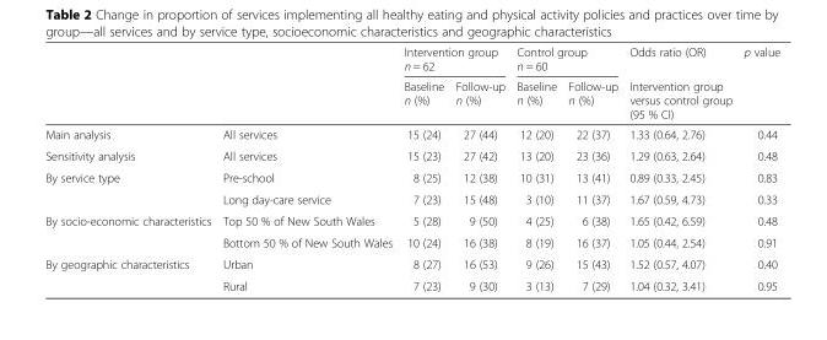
<table><thead><tr><td rowspan="2"></td><td rowspan="2"></td><td colspan="2">Intervention group n = 62</td><td colspan="2">Control group n = 60</td><td rowspan="2">Odds ratio (OR) Intervention group versus control group (95 % CI)</td><td rowspan="2">p value</td></tr><tr><td>Baseline n (%)</td><td>Follow-up n (%)</td><td>Baseline n (%)</td><td>Follow-up n (%)</td></tr></thead><tbody><tr><td>Main analysis</td><td>All services</td><td>15 (24)</td><td>27 (44)</td><td>12 (20)</td><td>22 (37)</td><td>1.33 (0.64, 2.76)</td><td>0.44</td></tr><tr><td>Sensitivity analysis</td><td>All services</td><td>15 (23)</td><td>27 (42)</td><td>13 (20)</td><td>23 (36)</td><td>1.29 (0.63, 2.64)</td><td>0.48</td></tr><tr><td rowspan="2">By service type</td><td>Pre-school</td><td>8 (25)</td><td>12 (38)</td><td>10 (31)</td><td>13 (41)</td><td>0.89 (0.33, 2.45)</td><td>0.83</td></tr><tr><td>Long day-care service</td><td>7 (23)</td><td>15 (48)</td><td>3 (10)</td><td>11 (37)</td><td>1.67 (0.59, 4.73)</td><td>0.33</td></tr><tr><td rowspan="2">By socio-economic characteristics</td><td>Top 50 % of New South Wales</td><td>5 (28)</td><td>9 (50)</td><td>4 (25)</td><td>6 (38)</td><td>1.65 (0.42, 6.59)</td><td>0.48</td></tr><tr><td>Bottom 50 % of New South Wales</td><td>10 (24)</td><td>16 (38)</td><td>8 (19)</td><td>16 (37)</td><td>1.05 (0.44, 2.54)</td><td>0.91</td></tr><tr><td rowspan="2">By geographic characteristics</td><td>Urban</td><td>8 (27)</td><td>16 (53)</td><td>9 (26)</td><td>15 (43)</td><td>1.52 (0.57, 4.07)</td><td>0.40</td></tr><tr><td>Rural</td><td>7 (23)</td><td>9 (30)</td><td>3 (13)</td><td>7 (29)</td><td>1.04 (0.32, 3.41)</td><td>0.95</td></tr></tbody></table>